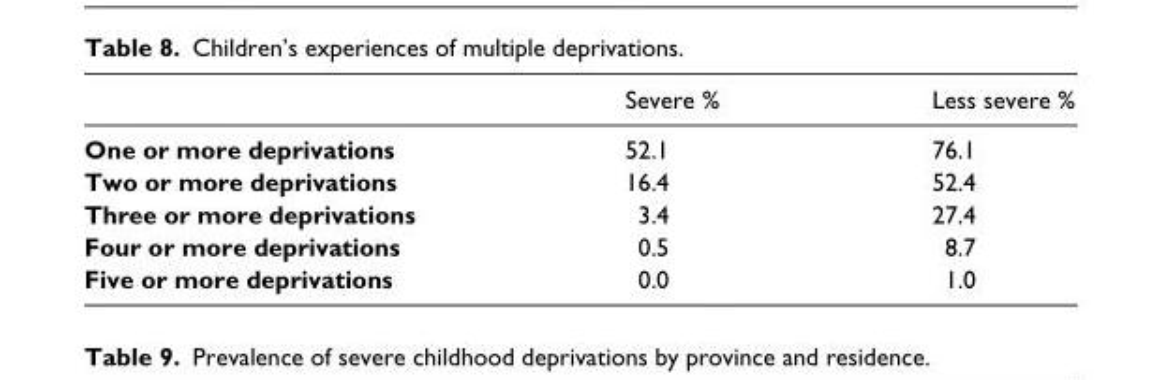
<table><thead><tr><td></td><td>Severe %</td><td>Less severe %</td></tr></thead><tbody><tr><td>One or more deprivations</td><td>52.1</td><td>76.1</td></tr><tr><td>Two or more deprivations</td><td>16.4</td><td>52.4</td></tr><tr><td>Three or more deprivations</td><td>3.4</td><td>27.4</td></tr><tr><td>Four or more deprivations</td><td>0.5</td><td>8.7</td></tr><tr><td>Five or more deprivations</td><td>0.0</td><td>1.0</td></tr></tbody></table>